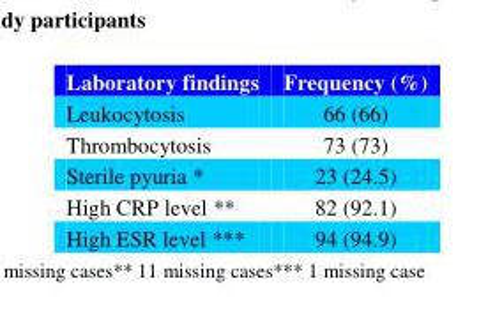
<table><thead><tr><td>Laboratory findings</td><td>Frequency (%)</td></tr></thead><tbody><tr><td>Leukocytosis</td><td>66 (66)</td></tr><tr><td>Thrombocytosis</td><td>73 (73)</td></tr><tr><td>Sterile pyuria *</td><td>23 (24.5)</td></tr><tr><td>High CRP level **</td><td>82 (92.1)</td></tr><tr><td>High ESR level ***</td><td>94 (94.9)</td></tr></tbody></table>